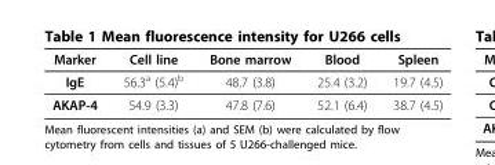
<table><thead><tr><td>Marker</td><td>Cell line</td><td>Bone marrow</td><td>Blood</td><td>Spleen</td></tr></thead><tbody><tr><td>IgE</td><td>56.3<sup>a</sup> (5.4)<sup>b</sup></td><td>48.7 (3.8)</td><td>25.4 (3.2)</td><td>19.7 (4.5)</td></tr><tr><td>AKAP-4</td><td>54.9 (3.3)</td><td>47.8 (7.6)</td><td>52.1 (6.4)</td><td>38.7 (4.5)</td></tr></tbody></table>